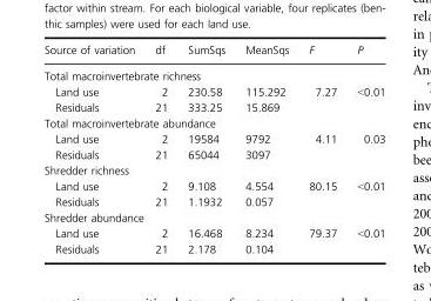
<table><thead><tr><td>Source of variation</td><td>df</td><td>SumSqs</td><td>MeanSqs</td><td>F</td><td>P</td></tr></thead><tbody><tr><td colspan="6">Total macroinvertebrate richness</td></tr><tr><td>Land use</td><td>2</td><td>230.58</td><td>115.292</td><td rowspan="2">7.27</td><td rowspan="2">&lt;0.01</td></tr><tr><td>Residuals</td><td>21</td><td>333.25</td><td>15.869</td></tr><tr><td colspan="6">Total macroinvertebrate abundance</td></tr><tr><td>Land use</td><td>2</td><td>19584</td><td>9792</td><td rowspan="2">4.11</td><td rowspan="2">0.03</td></tr><tr><td>Residuals</td><td>21</td><td>65044</td><td>3097</td></tr><tr><td colspan="6">Shredder richness</td></tr><tr><td>Land use</td><td>2</td><td>9.108</td><td>4.554</td><td rowspan="2">80.15</td><td rowspan="2">&lt;0.01</td></tr><tr><td>Residuals</td><td>21</td><td>1.1932</td><td>0.057</td></tr><tr><td colspan="6">Shredder abundance</td></tr><tr><td>Land use</td><td>2</td><td>16.468</td><td>8.234</td><td rowspan="2">79.37</td><td rowspan="2">&lt;0.01</td></tr><tr><td>Residuals</td><td>21</td><td>2.178</td><td>0.104</td></tr></tbody></table>